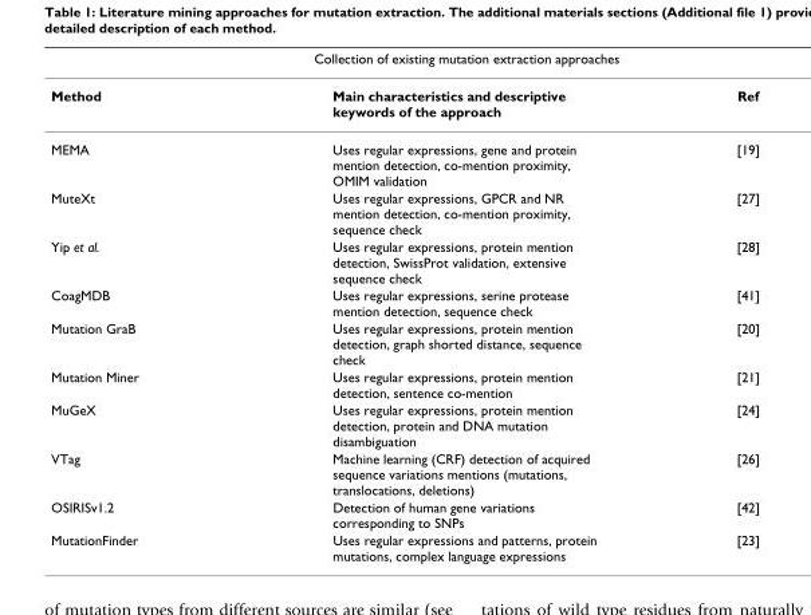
<table><thead><tr><td colspan="3">Collection of existing mutation extraction approaches</td></tr><tr><td>Method</td><td>Main characteristics and descriptive keywords of the approach</td><td>Ref</td></tr></thead><tbody><tr><td>MEMA</td><td>Uses regular expressions, gene and protein mention detection, co-mention proximity, OMIM validation</td><td>[19]</td></tr><tr><td>MuteXt</td><td>Uses regular expressions, GPCR and NR mention detection, co-mention proximity, sequence check</td><td>[27]</td></tr><tr><td>Yip et al.</td><td>Uses regular expressions, protein mention detection, SwissProt validation, extensive sequence check</td><td>[28]</td></tr><tr><td>CoagMDB</td><td>Uses regular expressions, serine protease mention detection, sequence check</td><td>[41]</td></tr><tr><td>Mutation GraB</td><td>Uses regular expressions, protein mention detection, graph shorted distance, sequence check</td><td>[20]</td></tr><tr><td>Mutation Miner</td><td>Uses regular expressions, protein mention detection, sentence co-mention</td><td>[21]</td></tr><tr><td>MuGeX</td><td>Uses regular expressions, protein mention detection, protein and DNA mutation disambiguation</td><td>[24]</td></tr><tr><td>VTag</td><td>Machine learning (CRF) detection of acquired sequence variations mentions (mutations, translocations, deletions)</td><td>[26]</td></tr><tr><td>OSIRISv1.2</td><td>Detection of human gene variations corresponding to SNPs</td><td>[42]</td></tr><tr><td>MutationFinder</td><td>Uses regular expressions and patterns, protein mutations, complex language expressions</td><td>[23]</td></tr></tbody></table>